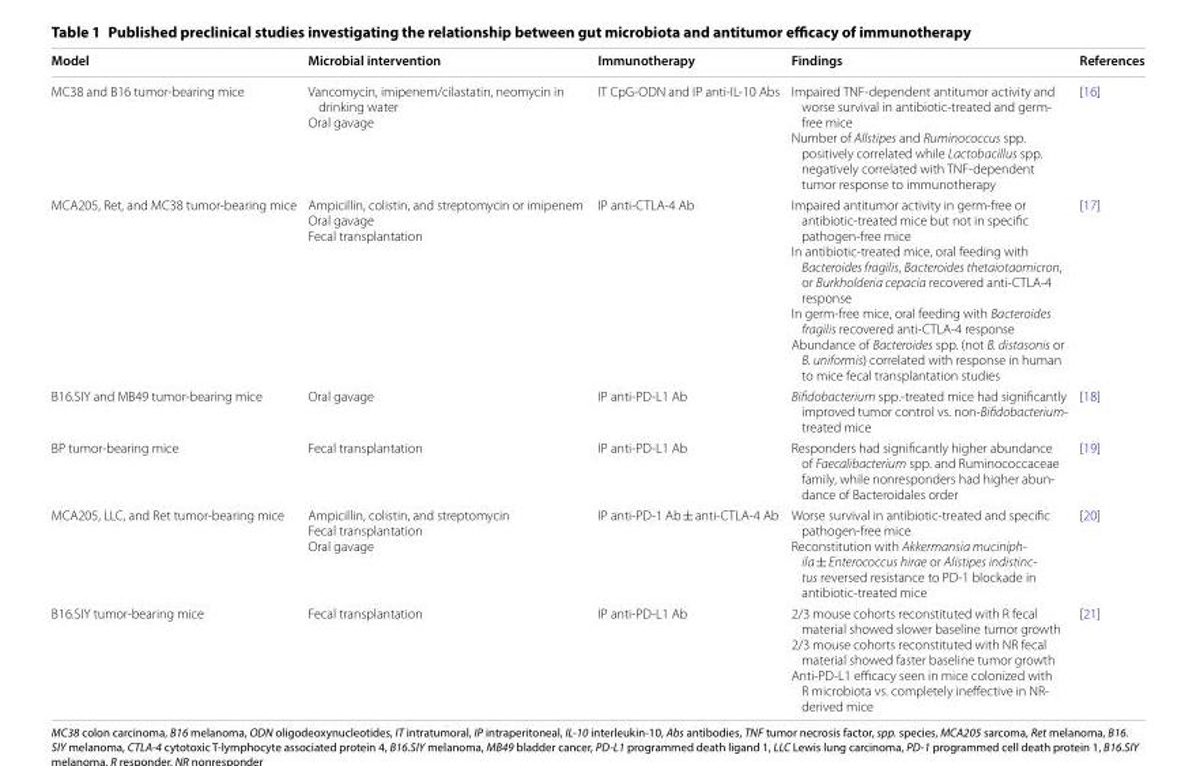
<table><thead><tr><td>Model</td><td>Microbial intervention</td><td>Immunotherapy</td><td>Findings</td><td>References</td></tr></thead><tbody><tr><td>MC38 and B16 tumor‑bearing mice</td><td>Vancomycin, imipenem/cilastatin, neomycin in drinking water Oral gavage</td><td>IT CpG‑ODN and IP anti‑IL‑10 Abs</td><td>Impaired TNF‑dependent antitumor activity and worse survival in antibiotic‑treated and germ‑ free mice Number of Allstipes and Ruminococcus spp. positively correlated while Lactobacillus spp. negatively correlated with TNF‑dependent tumor response to immunotherapy</td><td>[16]</td></tr><tr><td>MCA205, Ret, and MC38 tumor‑bearing mice</td><td>Ampicillin, colistin, and streptomycin or imipenem Oral gavage Fecal transplantation</td><td>IP anti‑CTLA‑4 Ab</td><td>Impaired antitumor activity in germ‑free or antibiotic‑treated mice but not in specific pathogen‑free mice In antibiotic‑treated mice, oral feeding with Bacteroides fragilis, Bacteroides thetaiotaomicron, or Burkholderia cepacia recovered anti‑CTLA‑4 response In germ‑free mice, oral feeding with Bacteroides fragilis recovered anti‑CTLA‑4 response Abundance of Bacteroides spp. (not B. distasonis or B. uniformis) correlated with response in human to mice fecal transplantation studies</td><td>[17]</td></tr><tr><td>B16.SIY and MB49 tumor‑bearing mice</td><td>Oral gavage</td><td>IP anti‑PD‑L1 Ab</td><td>Bifidobacterium spp.‑treated mice had significantly improved tumor control vs. non‑Bifidobacterium‑ treated mice</td><td>[18]</td></tr><tr><td>BP tumor‑bearing mice</td><td>Fecal transplantation</td><td>IP anti‑PD‑L1 Ab</td><td>Responders had significantly higher abundance of Faecalibacterium spp. and Ruminococcaceae family, while nonresponders had higher abun‑ dance of Bacteroidales order</td><td>[19]</td></tr><tr><td>MCA205, LLC, and Ret tumor‑bearing mice</td><td>Ampicillin, colistin, and streptomycin Fecal transplantation Oral gavage</td><td>IP anti‑PD‑1 Ab ± anti‑CTLA‑4 Ab</td><td>Worse survival in antibiotic‑treated and specific pathogen‑free mice Reconstitution with Akkermansia muciniph- ila ± Enterococcus hirae or Alistipes indistinc- tus reversed resistance to PD‑1 blockade in antibiotic‑treated mice</td><td>[20]</td></tr><tr><td>B16.SIY tumor‑bearing mice</td><td>Fecal transplantation</td><td>IP anti‑PD‑L1 Ab</td><td>2/3 mouse cohorts reconstituted with R fecal material showed slower baseline tumor growth 2/3 mouse cohorts reconstituted with NR fecal material showed faster baseline tumor growth Anti‑PD‑L1 efficacy seen in mice colonized with R microbiota vs. completely ineffective in NR‑ derived mice</td><td>[21]</td></tr></tbody></table>